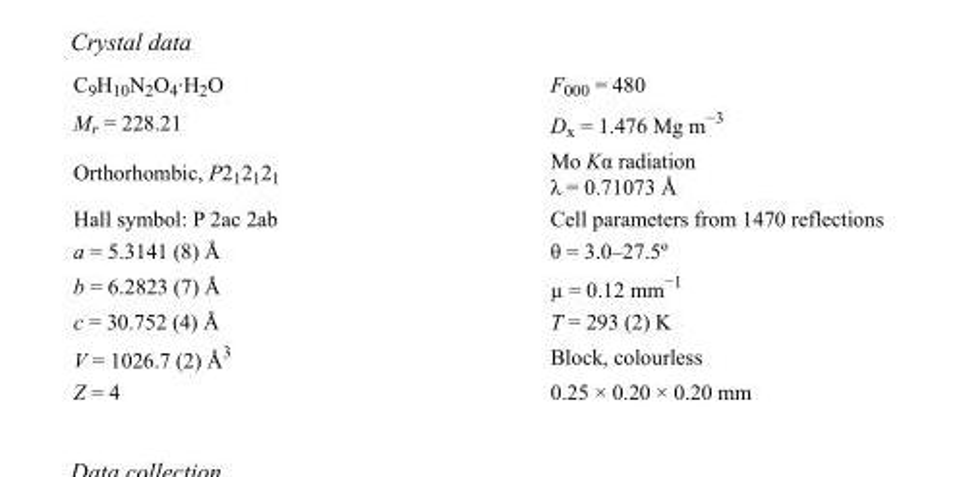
<table><tbody><tr><td>C<sub>9</sub>H<sub>10</sub>N<sub>2</sub>O<sub>4</sub>·H<sub>2</sub>O</td><td>F<sub>000</sub> = 480</td></tr><tr><td>M<sub>r</sub> = 228.21</td><td>D<sub>x</sub> = 1.476 Mg m<sup>−3</sup></td></tr><tr><td>Orthorhombic, P2<sub>1</sub>2<sub>1</sub>2<sub>1</sub></td><td>Mo Kα radiation λ = 0.71073 Å</td></tr><tr><td>Hall symbol: P 2ac 2ab</td><td>Cell parameters from 1470 reflections</td></tr><tr><td>a = 5.3141 (8) Å</td><td>θ = 3.0–27.5º</td></tr><tr><td>b = 6.2823 (7) Å</td><td>µ = 0.12 mm<sup>−1</sup></td></tr><tr><td>c = 30.752 (4) Å</td><td>T = 293 (2) K</td></tr><tr><td>V = 1026.7 (2) Å<sup>3</sup></td><td>Block, colourless</td></tr><tr><td>Z = 4</td><td>0.25 × 0.20 × 0.20 mm</td></tr></tbody></table>